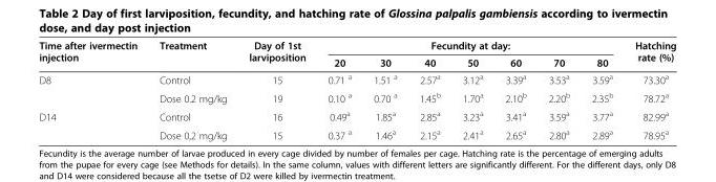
<table><thead><tr><td rowspan="2">Time after ivermectin injection</td><td rowspan="2">Treatment</td><td rowspan="2">Day of 1st larviposition</td><td colspan="7">Fecundity at day:</td><td rowspan="2">Hatching rate (%)</td></tr><tr><td>20</td><td>30</td><td>40</td><td>50</td><td>60</td><td>70</td><td>80</td></tr></thead><tbody><tr><td rowspan="2">D8</td><td>Control</td><td>15</td><td>0.71 <sup>a</sup></td><td>1.51 <sup>a</sup></td><td>2.57<sup>a</sup></td><td>3.12<sup>a</sup></td><td>3.39<sup>a</sup></td><td>3.53<sup>a</sup></td><td>3.59<sup>a</sup></td><td>73.30<sup>a</sup></td></tr><tr><td>Dose 0.2 mg/kg</td><td>19</td><td>0.10 <sup>a</sup></td><td>0.70 <sup>a</sup></td><td>1.45<sup>b</sup></td><td>1.70<sup>a</sup></td><td>2.10<sup>b</sup></td><td>2.20<sup>b</sup></td><td>2.35<sup>b</sup></td><td>78.72<sup>a</sup></td></tr><tr><td rowspan="2">D14</td><td>Control</td><td>16</td><td>0.49<sup>a</sup></td><td>1.85<sup>a</sup></td><td>2.85<sup>a</sup></td><td>3.23<sup>a</sup></td><td>3.41<sup>a</sup></td><td>3.59<sup>a</sup></td><td>3.77<sup>a</sup></td><td>82.99<sup>a</sup></td></tr><tr><td>Dose 0,2 mg/kg</td><td>15</td><td>0.37 <sup>a</sup></td><td>1.46<sup>a</sup></td><td>2.15<sup>a</sup></td><td>2.41<sup>a</sup></td><td>2.65<sup>a</sup></td><td>2.80<sup>a</sup></td><td>2.89<sup>a</sup></td><td>78.95<sup>a</sup></td></tr></tbody></table>